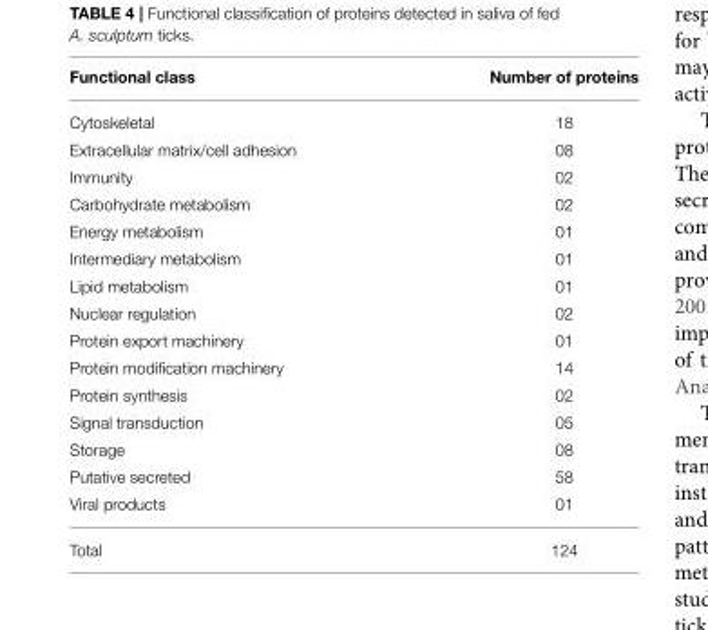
<table><thead><tr><td>Functional class</td><td>Number of proteins</td></tr></thead><tbody><tr><td>Cytoskeletal</td><td>18</td></tr><tr><td>Extracellular matrix/cell adhesion</td><td>08</td></tr><tr><td>Immunity</td><td>02</td></tr><tr><td>Carbohydrate metabolism</td><td>02</td></tr><tr><td>Energy metabolism</td><td>01</td></tr><tr><td>Intermediary metabolism</td><td>01</td></tr><tr><td>Lipid metabolism</td><td>01</td></tr><tr><td>Nuclear regulation</td><td>02</td></tr><tr><td>Protein export machinery</td><td>01</td></tr><tr><td>Protein modification machinery</td><td>14</td></tr><tr><td>Protein synthesis</td><td>02</td></tr><tr><td>Signal transduction</td><td>05</td></tr><tr><td>Storage</td><td>08</td></tr><tr><td>Putative secreted</td><td>58</td></tr><tr><td>Viral products</td><td>01</td></tr><tr><td>Total</td><td>124</td></tr></tbody></table>